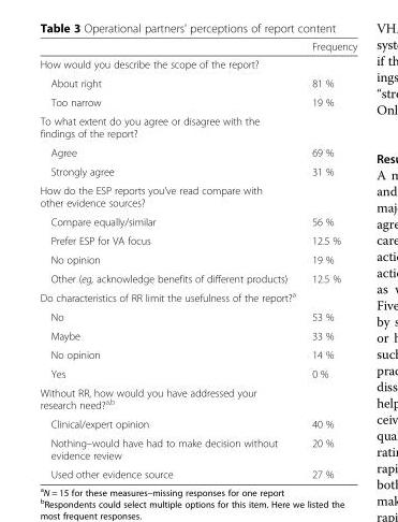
<table><thead><tr><td></td><td>Frequency</td></tr></thead><tbody><tr><td colspan="2">How would you describe the scope of the report?</td></tr><tr><td>About right</td><td>81 %</td></tr><tr><td>Too narrow</td><td>19 %</td></tr><tr><td colspan="2">To what extent do you agree or disagree with the findings of the report?</td></tr><tr><td>Agree</td><td>69 %</td></tr><tr><td>Strongly agree</td><td>31 %</td></tr><tr><td colspan="2">How do the ESP reports you’ve read compare with other evidence sources?</td></tr><tr><td>Compare equally/similar</td><td>56 %</td></tr><tr><td>Prefer ESP for VA focus</td><td>12.5 %</td></tr><tr><td>No opinion</td><td>19 %</td></tr><tr><td>Other (eg, acknowledge benefits of different products)</td><td>12.5 %</td></tr><tr><td colspan="2">Do characteristics of RR limit the usefulness of the report?<sup>a</sup></td></tr><tr><td>No</td><td>53 %</td></tr><tr><td>Maybe</td><td>33 %</td></tr><tr><td>No opinion</td><td>14 %</td></tr><tr><td>Yes</td><td>0 %</td></tr><tr><td colspan="2">Without RR, how would you have addressed your research need?<sup>a,b</sup></td></tr><tr><td>Clinical/expert opinion</td><td>40 %</td></tr><tr><td>Nothing–would have had to make decision without evidence review</td><td>20 %</td></tr><tr><td>Used other evidence source</td><td>27 %</td></tr></tbody></table>